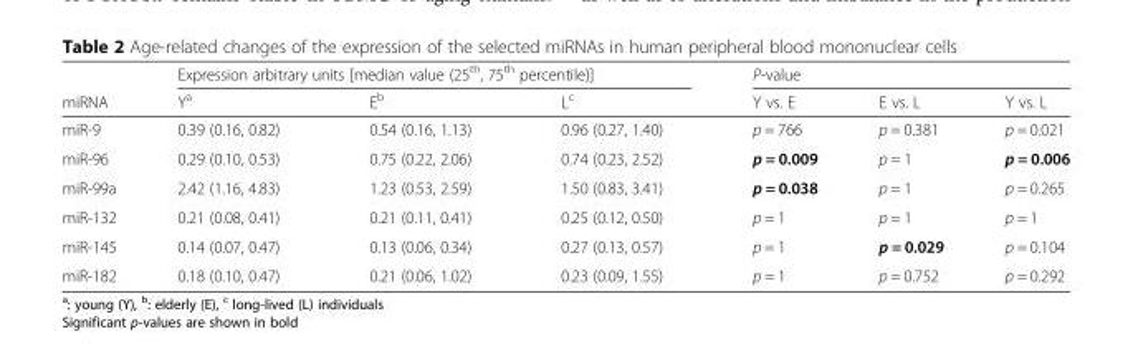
<table><thead><tr><td rowspan="2">miRNA</td><td colspan="3">Expression arbitrary units [median value (25<sup>th</sup>, 75<sup>th</sup> percentile)]</td><td colspan="3">P-value</td></tr><tr><td>Y<sup>a</sup></td><td>E<sup>b</sup></td><td>L<sup>c</sup></td><td>Y vs. E</td><td>E vs. L</td><td>Y vs. L</td></tr></thead><tbody><tr><td>miR-9</td><td>0.39 (0.16, 0.82)</td><td>0.54 (0.16, 1.13)</td><td>0.96 (0.27, 1.40)</td><td>p = 766</td><td>p = 0.381</td><td>p = 0.021</td></tr><tr><td>miR-96</td><td>0.29 (0.10, 0.53)</td><td>0.75 (0.22, 2.06)</td><td>0.74 (0.23, 2.52)</td><td>p = 0.009</td><td>p = 1</td><td>p = 0.006</td></tr><tr><td>miR-99a</td><td>2.42 (1.16, 4.83)</td><td>1.23 (0.53, 2.59)</td><td>1.50 (0.83, 3.41)</td><td>p = 0.038</td><td>p = 1</td><td>p = 0.265</td></tr><tr><td>miR-132</td><td>0.21 (0.08, 0.41)</td><td>0.21 (0.11, 0.41)</td><td>0.25 (0.12, 0.50)</td><td>p = 1</td><td>p = 1</td><td>p = 1</td></tr><tr><td>miR-145</td><td>0.14 (0.07, 0.47)</td><td>0.13 (0.06, 0.34)</td><td>0.27 (0.13, 0.57)</td><td>p = 1</td><td>p = 0.029</td><td>p = 0.104</td></tr><tr><td>miR-182</td><td>0.18 (0.10, 0.47)</td><td>0.21 (0.06, 1.02)</td><td>0.23 (0.09, 1.55)</td><td>p = 1</td><td>p = 0.752</td><td>p = 0.292</td></tr></tbody></table>